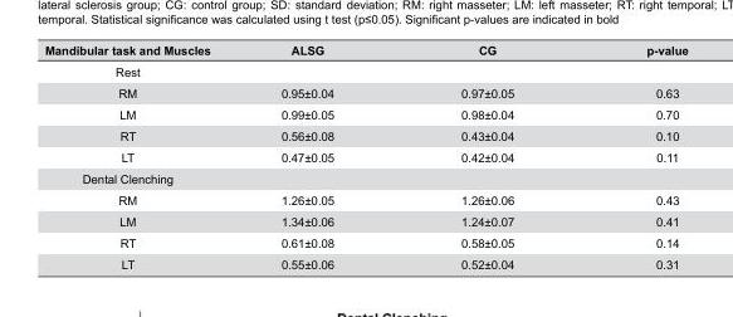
<table><thead><tr><td>Mandibular task and Muscles</td><td>ALSG</td><td>CG</td><td>p-value</td></tr></thead><tbody><tr><td colspan="4">Rest</td></tr><tr><td>RM</td><td>0.95±0.04</td><td>0.97±0.05</td><td>0.63</td></tr><tr><td>LM</td><td>0.99±0.05</td><td>0.98±0.04</td><td>0.70</td></tr><tr><td>RT</td><td>0.56±0.08</td><td>0.43±0.04</td><td>0.10</td></tr><tr><td>LT</td><td>0.47±0.05</td><td>0.42±0.04</td><td>0.11</td></tr><tr><td colspan="4">Dental Clenching</td></tr><tr><td>RM</td><td>1.26±0.05</td><td>1.26±0.06</td><td>0.43</td></tr><tr><td>LM</td><td>1.34±0.06</td><td>1.24±0.07</td><td>0.41</td></tr><tr><td>RT</td><td>0.61±0.08</td><td>0.58±0.05</td><td>0.14</td></tr><tr><td>LT</td><td>0.55±0.06</td><td>0.52±0.04</td><td>0.31</td></tr></tbody></table>